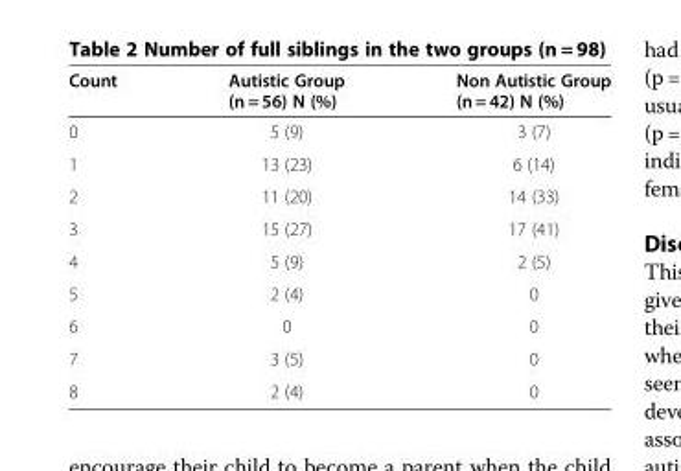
<table><thead><tr><td>Count</td><td>Autistic Group (n = 56) N (%)</td><td>Non Autistic Group (n = 42) N (%)</td></tr></thead><tbody><tr><td>0</td><td>5 (9)</td><td>3 (7)</td></tr><tr><td>1</td><td>13 (23)</td><td>6 (14)</td></tr><tr><td>2</td><td>11 (20)</td><td>14 (33)</td></tr><tr><td>3</td><td>15 (27)</td><td>17 (41)</td></tr><tr><td>4</td><td>5 (9)</td><td>2 (5)</td></tr><tr><td>5</td><td>2 (4)</td><td>0</td></tr><tr><td>6</td><td>0</td><td>0</td></tr><tr><td>7</td><td>3 (5)</td><td>0</td></tr><tr><td>8</td><td>2 (4)</td><td>0</td></tr></tbody></table>